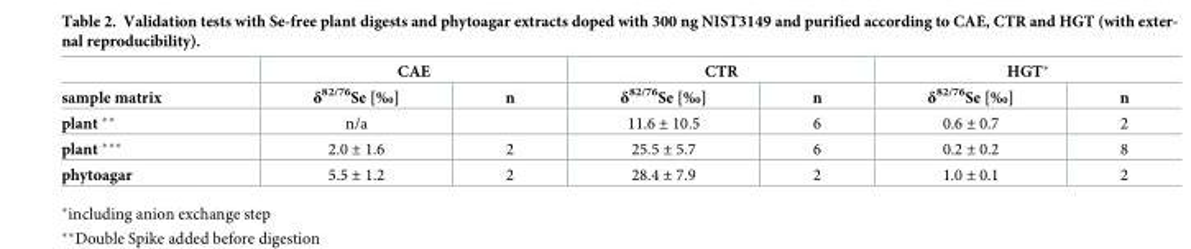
<table><thead><tr><td rowspan="2">sample matrix</td><td colspan="2">CAE</td><td colspan="2">CTR</td><td colspan="2">HGT*</td></tr><tr><td>δ<sup>82/76</sup>Se [‰]</td><td>n</td><td>δ<sup>82/76</sup>Se [‰]</td><td>n</td><td>δ<sup>82/76</sup>Se [‰]</td><td>n</td></tr></thead><tbody><tr><td>plant **</td><td>n/a</td><td></td><td>11.6 ± 10.5</td><td>6</td><td>0.6 ± 0.7</td><td>2</td></tr><tr><td>plant ***</td><td>2.0 ± 1.6</td><td>2</td><td>25.5 ± 5.7</td><td>6</td><td>0.2 ± 0.2</td><td>8</td></tr><tr><td>phytoagar</td><td>5.5 ± 1.2</td><td>2</td><td>28.4 ± 7.9</td><td>2</td><td>1.0 ± 0.1</td><td>2</td></tr></tbody></table>